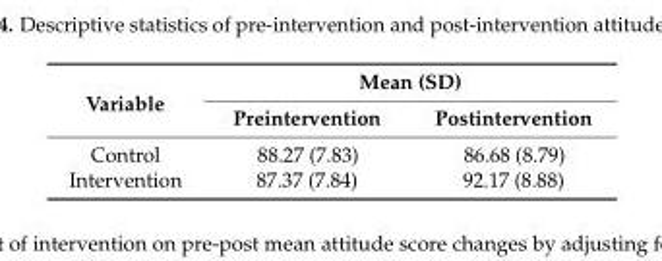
<table><thead><tr><td rowspan="2">Variable</td><td colspan="2">Mean (SD)</td></tr><tr><td>Preintervention</td><td>Postintervention</td></tr></thead><tbody><tr><td>Control Intervention</td><td>88.27 (7.83) 87.37 (7.84)</td><td>86.68 (8.79) 92.17 (8.88)</td></tr></tbody></table>